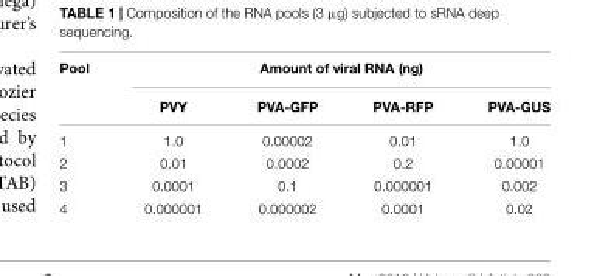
<table><thead><tr><td rowspan="2">Pool</td><td colspan="4">Amount of viral RNA (ng)</td></tr><tr><td>PVY</td><td>PVA-GFP</td><td>PVA-RFP</td><td>PVA-GUS</td></tr></thead><tbody><tr><td>1</td><td>1.0</td><td>0.00002</td><td>0.01</td><td>1.0</td></tr><tr><td>2</td><td>0.01</td><td>0.0002</td><td>0.2</td><td>0.00001</td></tr><tr><td>3</td><td>0.0001</td><td>0.1</td><td>0.000001</td><td>0.002</td></tr><tr><td>4</td><td>0.000001</td><td>0.000002</td><td>0.0001</td><td>0.02</td></tr></tbody></table>